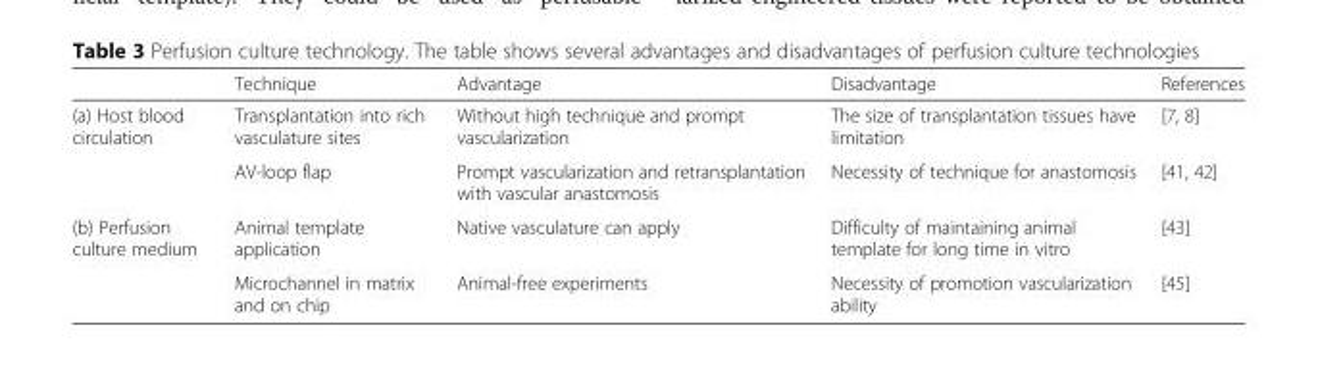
<table><thead><tr><td></td><td>Technique</td><td>Advantage</td><td>Disadvantage</td><td>References</td></tr></thead><tbody><tr><td rowspan="2">(a) Host blood circulation</td><td>Transplantation into rich vasculature sites</td><td>Without high technique and prompt vascularization</td><td>The size of transplantation tissues have limitation</td><td>[7, 8]</td></tr><tr><td>AV-loop flap</td><td>Prompt vascularization and retransplantation with vascular anastomosis</td><td>Necessity of technique for anastomosis</td><td>[41, 42]</td></tr><tr><td rowspan="2">(b) Perfusion culture medium</td><td>Animal template application</td><td>Native vasculature can apply</td><td>Difficulty of maintaining animal template for long time in vitro</td><td>[43]</td></tr><tr><td>Microchannel in matrix and on chip</td><td>Animal-free experiments</td><td>Necessity of promotion vascularization ability</td><td>[45]</td></tr></tbody></table>